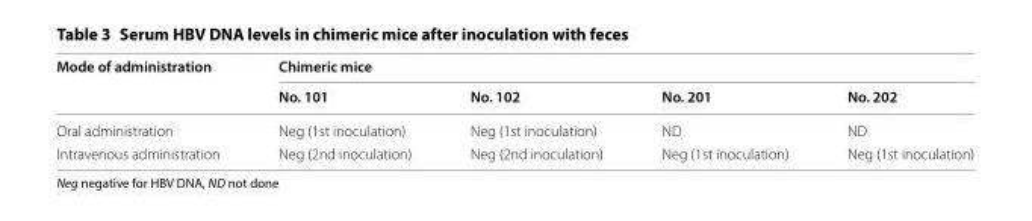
<table><thead><tr><td rowspan="2">Mode of administration</td><td colspan="4">Chimeric mice</td></tr><tr><td>No. 101</td><td>No. 102</td><td>No. 201</td><td>No. 202</td></tr></thead><tbody><tr><td>Oral administration</td><td>Neg (1st inoculation)</td><td>Neg (1st inoculation)</td><td>ND</td><td>ND</td></tr><tr><td>Intravenous administration</td><td>Neg (2nd inoculation)</td><td>Neg (2nd inoculation)</td><td>Neg (1st inoculation)</td><td>Neg (1st inoculation)</td></tr></tbody></table>